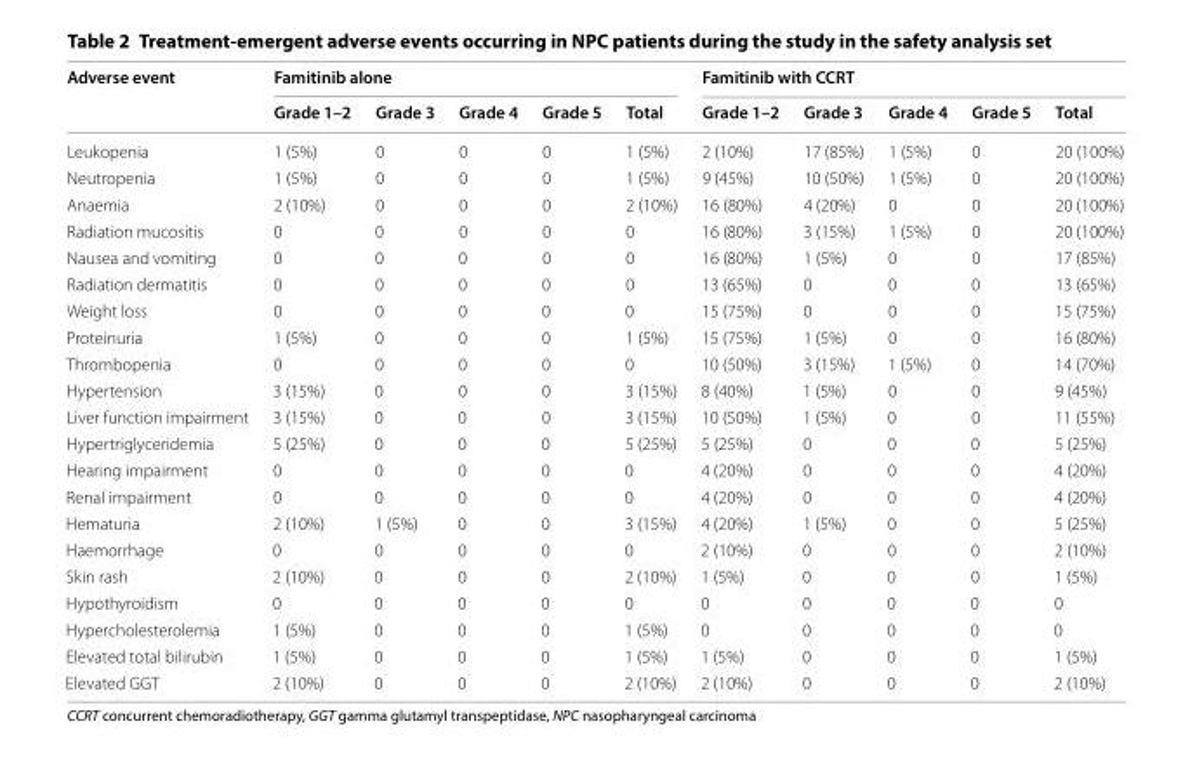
<table><thead><tr><td rowspan="2">Adverse event</td><td colspan="5">Famitinib alone</td><td colspan="5">Famitinib with CCRT</td></tr><tr><td>Grade 1–2</td><td>Grade 3</td><td>Grade 4</td><td>Grade 5</td><td>Total</td><td>Grade 1–2</td><td>Grade 3</td><td>Grade 4</td><td>Grade 5</td><td>Total</td></tr></thead><tbody><tr><td>Leukopenia</td><td>1 (5%)</td><td>0</td><td>0</td><td>0</td><td>1 (5%)</td><td>2 (10%)</td><td>17 (85%)</td><td>1 (5%)</td><td>0</td><td>20 (100%)</td></tr><tr><td>Neutropenia</td><td>1 (5%)</td><td>0</td><td>0</td><td>0</td><td>1 (5%)</td><td>9 (45%)</td><td>10 (50%)</td><td>1 (5%)</td><td>0</td><td>20 (100%)</td></tr><tr><td>Anaemia</td><td>2 (10%)</td><td>0</td><td>0</td><td>0</td><td>2 (10%)</td><td>16 (80%)</td><td>4 (20%)</td><td>0</td><td>0</td><td>20 (100%)</td></tr><tr><td>Radiation mucositis</td><td>0</td><td>0</td><td>0</td><td>0</td><td>0</td><td>16 (80%)</td><td>3 (15%)</td><td>1 (5%)</td><td>0</td><td>20 (100%)</td></tr><tr><td>Nausea and vomiting</td><td>0</td><td>0</td><td>0</td><td>0</td><td>0</td><td>16 (80%)</td><td>1 (5%)</td><td>0</td><td>0</td><td>17 (85%)</td></tr><tr><td>Radiation dermatitis</td><td>0</td><td>0</td><td>0</td><td>0</td><td>0</td><td>13 (65%)</td><td>0</td><td>0</td><td>0</td><td>13 (65%)</td></tr><tr><td>Weight loss</td><td>0</td><td>0</td><td>0</td><td>0</td><td>0</td><td>15 (75%)</td><td>0</td><td>0</td><td>0</td><td>15 (75%)</td></tr><tr><td>Proteinuria</td><td>1 (5%)</td><td>0</td><td>0</td><td>0</td><td>1 (5%)</td><td>15 (75%)</td><td>1 (5%)</td><td>0</td><td>0</td><td>16 (80%)</td></tr><tr><td>Thrombopenia</td><td>0</td><td>0</td><td>0</td><td>0</td><td>0</td><td>10 (50%)</td><td>3 (15%)</td><td>1 (5%)</td><td>0</td><td>14 (70%)</td></tr><tr><td>Hypertension</td><td>3 (15%)</td><td>0</td><td>0</td><td>0</td><td>3 (15%)</td><td>8 (40%)</td><td>1 (5%)</td><td>0</td><td>0</td><td>9 (45%)</td></tr><tr><td>Liver function impairment</td><td>3 (15%)</td><td>0</td><td>0</td><td>0</td><td>3 (15%)</td><td>10 (50%)</td><td>1 (5%)</td><td>0</td><td>0</td><td>11 (55%)</td></tr><tr><td>Hypertriglyceridemia</td><td>5 (25%)</td><td>0</td><td>0</td><td>0</td><td>5 (25%)</td><td>5 (25%)</td><td>0</td><td>0</td><td>0</td><td>5 (25%)</td></tr><tr><td>Hearing impairment</td><td>0</td><td>0</td><td>0</td><td>0</td><td>0</td><td>4 (20%)</td><td>0</td><td>0</td><td>0</td><td>4 (20%)</td></tr><tr><td>Renal impairment</td><td>0</td><td>0</td><td>0</td><td>0</td><td>0</td><td>4 (20%)</td><td>0</td><td>0</td><td>0</td><td>4 (20%)</td></tr><tr><td>Hematuria</td><td>2 (10%)</td><td>1 (5%)</td><td>0</td><td>0</td><td>3 (15%)</td><td>4 (20%)</td><td>1 (5%)</td><td>0</td><td>0</td><td>5 (25%)</td></tr><tr><td>Haemorrhage</td><td>0</td><td>0</td><td>0</td><td>0</td><td>0</td><td>2 (10%)</td><td>0</td><td>0</td><td>0</td><td>2 (10%)</td></tr><tr><td>Skin rash</td><td>2 (10%)</td><td>0</td><td>0</td><td>0</td><td>2 (10%)</td><td>1 (5%)</td><td>0</td><td>0</td><td>0</td><td>1 (5%)</td></tr><tr><td>Hypothyroidism</td><td>0</td><td>0</td><td>0</td><td>0</td><td>0</td><td>0</td><td>0</td><td>0</td><td>0</td><td>0</td></tr><tr><td>Hypercholesterolemia</td><td>1 (5%)</td><td>0</td><td>0</td><td>0</td><td>1 (5%)</td><td>0</td><td>0</td><td>0</td><td>0</td><td>0</td></tr><tr><td>Elevated total bilirubin</td><td>1 (5%)</td><td>0</td><td>0</td><td>0</td><td>1 (5%)</td><td>1 (5%)</td><td>0</td><td>0</td><td>0</td><td>1 (5%)</td></tr><tr><td>Elevated GGT</td><td>2 (10%)</td><td>0</td><td>0</td><td>0</td><td>2 (10%)</td><td>2 (10%)</td><td>0</td><td>0</td><td>0</td><td>2 (10%)</td></tr></tbody></table>